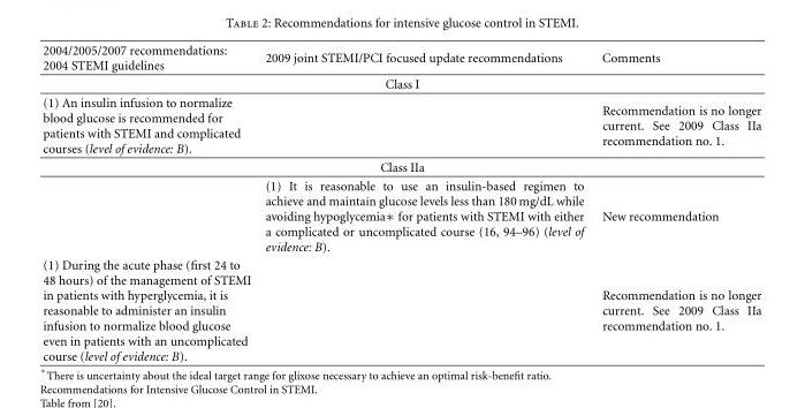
<table><thead><tr><td>2004/2005/2007 recommendations: 2004 STEMI guidelines</td><td>2009 joint STEMI/PCI focused update recommendations</td><td>Comments</td></tr></thead><tbody><tr><td colspan="3">Class I</td></tr><tr><td>(1) An insulin infusion to normalize blood glucose is recommended for patients with STEMI and complicated courses (level of evidence: B).</td><td></td><td>Recommendation is no longer current. See 2009 Class IIa recommendation no. 1.</td></tr><tr><td colspan="3">Class IIa</td></tr><tr><td></td><td>(1) It is reasonable to use an insulin-based regimen to achieve and maintain glucose levels less than 180 mg/dL while avoiding hypoglycemia∗ for patients with STEMI with either a complicated or uncomplicated course (16, 94–96) (level of evidence: B).</td><td>New recommendation</td></tr><tr><td>(1) During the acute phase (first 24 to 48 hours) of the management of STEMI in patients with hyperglycemia, it is reasonable to administer an insulin infusion to normalize blood glucose even in patients with an uncomplicated course (level of evidence: B).</td><td></td><td>Recommendation is no longer current. See 2009 Class IIa recommendation no. 1.</td></tr></tbody></table>